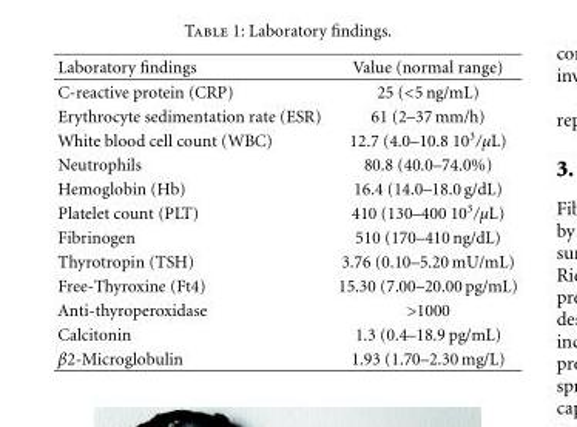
<table><thead><tr><td>Laboratory findings</td><td>Value (normal range)</td></tr></thead><tbody><tr><td>C-reactive protein (CRP)</td><td>25 (&lt;5 ng/mL)</td></tr><tr><td>Erythrocyte sedimentation rate (ESR)</td><td>61 (2–37 mm/h)</td></tr><tr><td>White blood cell count (WBC)</td><td>12.7 (4.0–10.8 10<sup>3</sup>/μL)</td></tr><tr><td>Neutrophils</td><td>80.8 (40.0–74.0%)</td></tr><tr><td>Hemoglobin (Hb)</td><td>16.4 (14.0–18.0 g/dL)</td></tr><tr><td>Platelet count (PLT)</td><td>410 (130–400 10<sup>3</sup>/μL)</td></tr><tr><td>Fibrinogen</td><td>510 (170–410 ng/dL)</td></tr><tr><td>Thyrotropin (TSH)</td><td>3.76 (0.10–5.20 mU/mL)</td></tr><tr><td>Free-Thyroxine (Ft4)</td><td>15.30 (7.00–20.00 pg/mL)</td></tr><tr><td>Anti-thyroperoxidase</td><td>&gt;1000</td></tr><tr><td>Calcitonin</td><td>1.3 (0.4–18.9 pg/mL)</td></tr><tr><td>β2-Microglobulin</td><td>1.93 (1.70–2.30 mg/L)</td></tr></tbody></table>